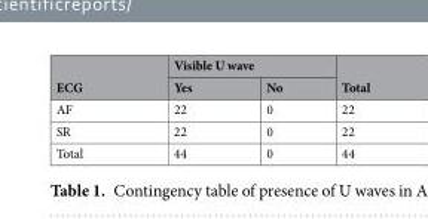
<table><thead><tr><td rowspan="2">ECG</td><td colspan="2">Visible U wave</td><td rowspan="2">Total</td></tr><tr><td>Yes</td><td>No</td></tr></thead><tbody><tr><td>AF</td><td>22</td><td>0</td><td>22</td></tr><tr><td>SR</td><td>22</td><td>0</td><td>22</td></tr><tr><td>Total</td><td>44</td><td>0</td><td>44</td></tr></tbody></table>